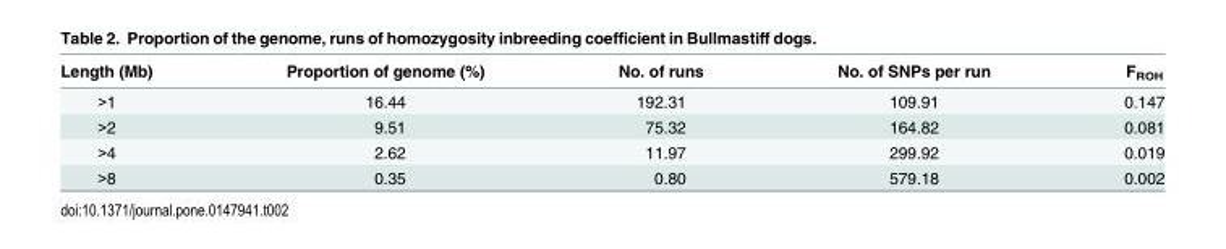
<table><thead><tr><td>Length (Mb)</td><td>Proportion of genome (%)</td><td>No. of runs</td><td>No. of SNPs per run</td><td>F<sub>ROH</sub></td></tr></thead><tbody><tr><td>&gt;1</td><td>16.44</td><td>192.31</td><td>109.91</td><td>0.147</td></tr><tr><td>&gt;2</td><td>9.51</td><td>75.32</td><td>164.82</td><td>0.081</td></tr><tr><td>&gt;4</td><td>2.62</td><td>11.97</td><td>299.92</td><td>0.019</td></tr><tr><td>&gt;8</td><td>0.35</td><td>0.80</td><td>579.18</td><td>0.002</td></tr></tbody></table>